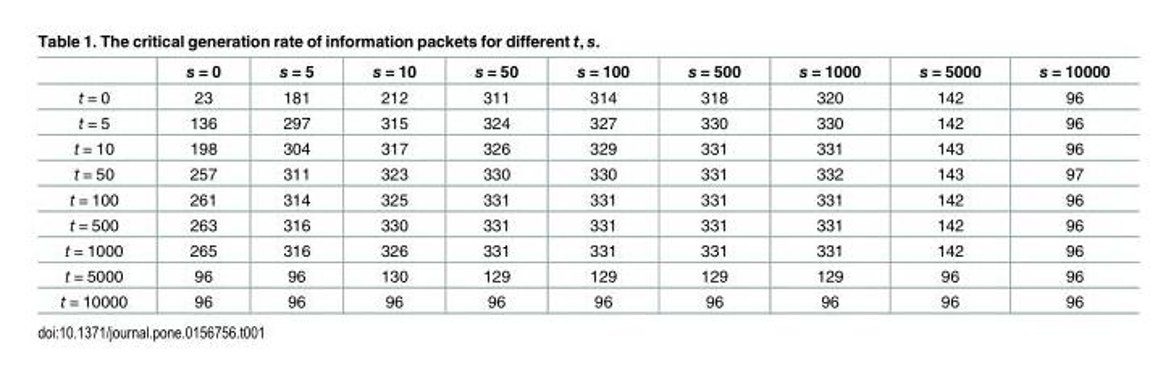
<table><thead><tr><td></td><td>s = 0</td><td>s = 5</td><td>s = 10</td><td>s = 50</td><td>s = 100</td><td>s = 500</td><td>s = 1000</td><td>s = 5000</td><td>s = 10000</td></tr></thead><tbody><tr><td>t = 0</td><td>23</td><td>181</td><td>212</td><td>311</td><td>314</td><td>318</td><td>320</td><td>142</td><td>96</td></tr><tr><td>t = 5</td><td>136</td><td>297</td><td>315</td><td>324</td><td>327</td><td>330</td><td>330</td><td>142</td><td>96</td></tr><tr><td>t = 10</td><td>198</td><td>304</td><td>317</td><td>326</td><td>329</td><td>331</td><td>331</td><td>143</td><td>96</td></tr><tr><td>t = 50</td><td>257</td><td>311</td><td>323</td><td>330</td><td>330</td><td>331</td><td>332</td><td>143</td><td>97</td></tr><tr><td>t = 100</td><td>261</td><td>314</td><td>325</td><td>331</td><td>331</td><td>331</td><td>331</td><td>142</td><td>96</td></tr><tr><td>t = 500</td><td>263</td><td>316</td><td>330</td><td>331</td><td>331</td><td>331</td><td>331</td><td>142</td><td>96</td></tr><tr><td>t = 1000</td><td>265</td><td>316</td><td>326</td><td>331</td><td>331</td><td>331</td><td>331</td><td>142</td><td>96</td></tr><tr><td>t = 5000</td><td>96</td><td>96</td><td>130</td><td>129</td><td>129</td><td>129</td><td>129</td><td>96</td><td>96</td></tr><tr><td>t = 10000</td><td>96</td><td>96</td><td>96</td><td>96</td><td>96</td><td>96</td><td>96</td><td>96</td><td>96</td></tr></tbody></table>